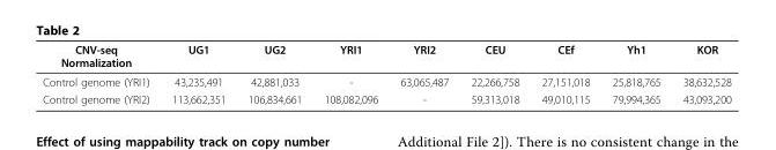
<table><thead><tr><td>CNV-seq Normalization</td><td>UG1</td><td>UG2</td><td>YRI1</td><td>YRI2</td><td>CEU</td><td>CEf</td><td>Yh1</td><td>KOR</td></tr></thead><tbody><tr><td>Control genome (YRI1)</td><td>43,235,491</td><td>42,881,033</td><td>-</td><td>63,065,487</td><td>22,266,758</td><td>27,151,018</td><td>25,818,765</td><td>38,632,528</td></tr><tr><td>Control genome (YRI2)</td><td>113,662,351</td><td>106,834,661</td><td>108,082,096</td><td>-</td><td>59,313,018</td><td>49,010,115</td><td>79,994,365</td><td>43,093,200</td></tr></tbody></table>